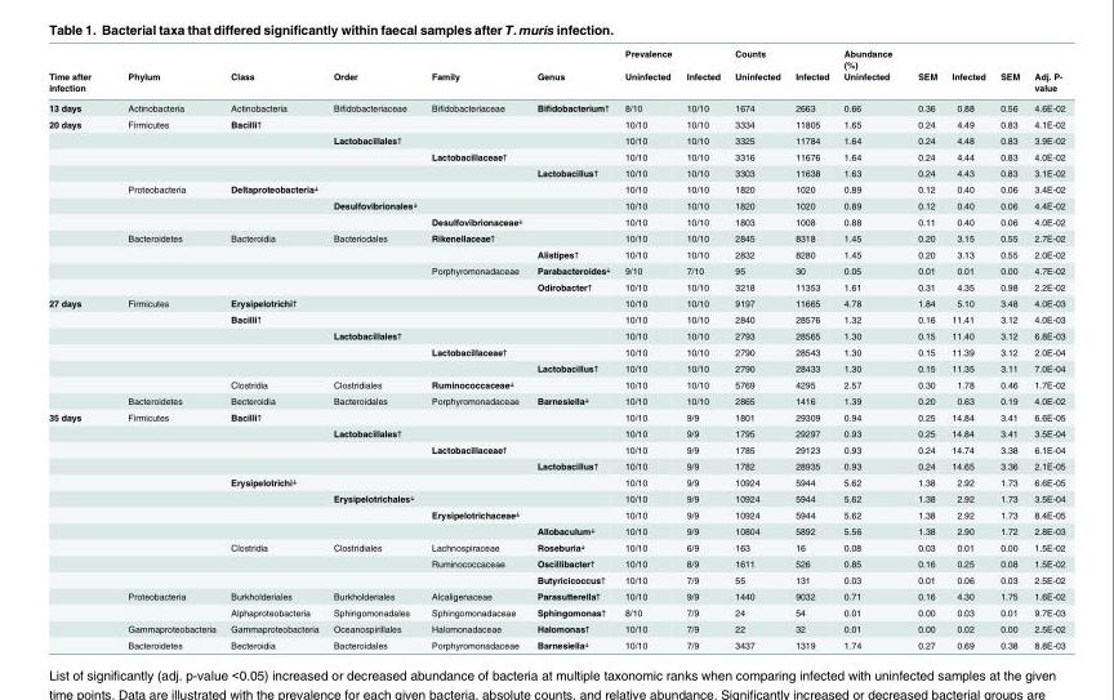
<table><thead><tr><td rowspan="2">Time after infection</td><td rowspan="2">Phylum</td><td rowspan="2">Class</td><td rowspan="2">Order</td><td rowspan="2">Family</td><td rowspan="2">Genus</td><td rowspan="2">Prevalence Uninfected</td><td rowspan="2">Infected</td><td rowspan="2">Counts Uninfected</td><td rowspan="2">Infected</td><td rowspan="2">Abundance (%) Uninfected</td><td rowspan="2">SEM</td><td rowspan="2">Infected</td><td rowspan="2">SEM</td><td rowspan="2">Adj. P- value</td></tr><tr></tr></thead><tbody><tr><td>13 days</td><td>Actinobacteria</td><td>Actinobacteria</td><td>Bifidobacteriaceae</td><td>Bifidobacteriaceae</td><td>Bifidobacteriumᛏ</td><td>8/10</td><td>10/10</td><td>1674</td><td>2663</td><td>0.66</td><td>0.36</td><td>0.88</td><td>0.56</td><td>4.6E-02</td></tr><tr><td rowspan="11">20 days</td><td>Firmicutes</td><td>Bacilliᛏ</td><td></td><td></td><td></td><td>10/10</td><td>10/10</td><td>3334</td><td>11805</td><td>1.65</td><td>0.24</td><td>4.49</td><td>0.83</td><td>4.1E-02</td></tr><tr><td></td><td></td><td>Lactobacillalesᛏ</td><td></td><td></td><td>10/10</td><td>10/10</td><td>3325</td><td>11784</td><td>1.64</td><td>0.24</td><td>4.48</td><td>0.83</td><td>3.9E-02</td></tr><tr><td></td><td></td><td></td><td>Lactobacillaceaeᛏ</td><td></td><td>10/10</td><td>10/10</td><td>3316</td><td>11676</td><td>1.64</td><td>0.24</td><td>4.44</td><td>0.83</td><td>4.0E-02</td></tr><tr><td></td><td></td><td></td><td></td><td>Lactobacillusᛏ</td><td>10/10</td><td>10/10</td><td>3303</td><td>11638</td><td>1.63</td><td>0.24</td><td>4.43</td><td>0.83</td><td>3.1E-02</td></tr><tr><td>Proteobacteria</td><td>Deltaproteobacteriaᛎ</td><td></td><td></td><td></td><td>10/10</td><td>10/10</td><td>1820</td><td>1020</td><td>0.89</td><td>0.12</td><td>0.40</td><td>0.06</td><td>3.4E-02</td></tr><tr><td></td><td></td><td>Desulfovibrionalesᛎ</td><td></td><td></td><td>10/10</td><td>10/10</td><td>1820</td><td>1020</td><td>0.89</td><td>0.12</td><td>0.40</td><td>0.06</td><td>4.4E-02</td></tr><tr><td></td><td></td><td></td><td>Desulfovibrionaceaeᛎ</td><td></td><td>10/10</td><td>10/10</td><td>1803</td><td>1008</td><td>0.88</td><td>0.11</td><td>0.40</td><td>0.06</td><td>4.0E-02</td></tr><tr><td>Bacteroidetes</td><td>Bacteroidia</td><td>Bacteriodales</td><td>Rikenellaceaeᛏ</td><td></td><td>10/10</td><td>10/10</td><td>2845</td><td>8318</td><td>1.45</td><td>0.20</td><td>3.15</td><td>0.55</td><td>2.7E-02</td></tr><tr><td></td><td></td><td></td><td></td><td>Alistipesᛏ</td><td>10/10</td><td>10/10</td><td>2832</td><td>8280</td><td>1.45</td><td>0.20</td><td>3.13</td><td>0.55</td><td>2.0E-02</td></tr><tr><td></td><td></td><td></td><td>Porphyromonadaceae</td><td>Parabacteroidesᛎ</td><td>9/10</td><td>7/10</td><td>95</td><td>30</td><td>0.05</td><td>0.01</td><td>0.01</td><td>0.00</td><td>4.7E-02</td></tr><tr><td></td><td></td><td></td><td></td><td>Odirobacterᛏ</td><td>10/10</td><td>10/10</td><td>3218</td><td>11353</td><td>1.61</td><td>0.31</td><td>4.35</td><td>0.98</td><td>2.2E-02</td></tr><tr><td rowspan="7">27 days</td><td>Firmicutes</td><td>Erysipelotrichiᛏ</td><td></td><td></td><td></td><td>10/10</td><td>10/10</td><td>9197</td><td>11665</td><td>4.78</td><td>1.84</td><td>5.10</td><td>3.48</td><td>4.0E-03</td></tr><tr><td></td><td>Bacilliᛏ</td><td></td><td></td><td></td><td>10/10</td><td>10/10</td><td>2840</td><td>28576</td><td>1.32</td><td>0.16</td><td>11.41</td><td>3.12</td><td>4.0E-03</td></tr><tr><td></td><td></td><td>Lactobacillalesᛏ</td><td></td><td></td><td>10/10</td><td>10/10</td><td>2793</td><td>28565</td><td>1.30</td><td>0.15</td><td>11.40</td><td>3.12</td><td>6.8E-03</td></tr><tr><td></td><td></td><td></td><td>Lactobacillaceaeᛏ</td><td></td><td>10/10</td><td>10/10</td><td>2790</td><td>28543</td><td>1.30</td><td>0.15</td><td>11.39</td><td>3.12</td><td>2.0E-04</td></tr><tr><td></td><td></td><td></td><td></td><td>Lactobacillusᛏ</td><td>10/10</td><td>10/10</td><td>2790</td><td>28433</td><td>1.30</td><td>0.15</td><td>11.35</td><td>3.11</td><td>7.0E-04</td></tr><tr><td></td><td>Clostridia</td><td>Clostridiales</td><td>Ruminococcaceaeᛎ</td><td></td><td>10/10</td><td>10/10</td><td>5769</td><td>4295</td><td>2.57</td><td>0.30</td><td>1.78</td><td>0.46</td><td>1.7E-02</td></tr><tr><td>Bacteroidetes</td><td>Becteroidia</td><td>Bacteroidales</td><td>Porphyromonadaceae</td><td>Barnesiellaᛎ</td><td>10/10</td><td>10/10</td><td>2865</td><td>1416</td><td>1.39</td><td>0.20</td><td>0.63</td><td>0.19</td><td>4.0E-02</td></tr><tr><td rowspan="15">35 days</td><td>Firmicutes</td><td>Bacilliᛏ</td><td></td><td></td><td></td><td>10/10</td><td>9/9</td><td>1801</td><td>29309</td><td>0.94</td><td>0.25</td><td>14.84</td><td>3.41</td><td>6.6E-05</td></tr><tr><td></td><td></td><td>Lactobacillalesᛏ</td><td></td><td></td><td>10/10</td><td>9/9</td><td>1795</td><td>29297</td><td>0.93</td><td>0.25</td><td>14.84</td><td>3.41</td><td>3.5E-04</td></tr><tr><td></td><td></td><td></td><td>Lactobacillaceaeᛏ</td><td></td><td>10/10</td><td>9/9</td><td>1785</td><td>29123</td><td>0.93</td><td>0.24</td><td>14.74</td><td>3.38</td><td>6.1E-04</td></tr><tr><td></td><td></td><td></td><td></td><td>Lactobacillusᛏ</td><td>10/10</td><td>9/9</td><td>1782</td><td>28935</td><td>0.93</td><td>0.24</td><td>14.65</td><td>3.36</td><td>2.1E-05</td></tr><tr><td></td><td>Erysipelotrichiᛎ</td><td></td><td></td><td></td><td>10/10</td><td>9/9</td><td>10924</td><td>5944</td><td>5.62</td><td>1.38</td><td>2.92</td><td>1.73</td><td>6.6E-05</td></tr><tr><td></td><td></td><td>Erysipelotrichalesᛎ</td><td></td><td></td><td>10/10</td><td>9/9</td><td>10924</td><td>5944</td><td>5.62</td><td>1.38</td><td>2.92</td><td>1.73</td><td>3.5E-04</td></tr><tr><td></td><td></td><td></td><td>Erysipelotrichaceaeᛎ</td><td></td><td>10/10</td><td>9/9</td><td>10924</td><td>5944</td><td>5.62</td><td>1.38</td><td>2.92</td><td>1.73</td><td>8.4E-05</td></tr><tr><td></td><td></td><td></td><td></td><td>Allobaculumᛎ</td><td>10/10</td><td>9/9</td><td>10804</td><td>5892</td><td>5.56</td><td>1.38</td><td>2.90</td><td>1.72</td><td>2.8E-03</td></tr><tr><td></td><td>Clostridia</td><td>Clostridiales</td><td>Lachnospiraceae</td><td>Roseburiaᛎ</td><td>10/10</td><td>6/9</td><td>163</td><td>16</td><td>0.08</td><td>0.03</td><td>0.01</td><td>0.00</td><td>1.5E-02</td></tr><tr><td></td><td></td><td></td><td>Ruminococcaceae</td><td>Oscillibacterᛏ</td><td>10/10</td><td>8/9</td><td>1611</td><td>526</td><td>0.85</td><td>0.16</td><td>0.25</td><td>0.08</td><td>1.5E-02</td></tr><tr><td></td><td></td><td></td><td></td><td>Butyricicoccusᛏ</td><td>10/10</td><td>7/9</td><td>55</td><td>131</td><td>0.03</td><td>0.01</td><td>0.06</td><td>0.03</td><td>2.5E-02</td></tr><tr><td>Proteobacteria</td><td>Burkholderiales</td><td>Burkholderiales</td><td>Alcaligenaceae</td><td>Parasutterellaᛏ</td><td>10/10</td><td>9/9</td><td>1440</td><td>9032</td><td>0.71</td><td>0.16</td><td>4.30</td><td>1.75</td><td>1.6E-02</td></tr><tr><td></td><td>Alphaproteobacteria</td><td>Sphingomonadales</td><td>Sphingomonadaceae</td><td>Sphingomonasᛏ</td><td>8/10</td><td>7/9</td><td>24</td><td>54</td><td>0.01</td><td>0.00</td><td>0.03</td><td>0.01</td><td>9.7E-03</td></tr><tr><td>Gammaproteobacteria</td><td>Gammaproteobacteria</td><td>Oceanospirillales</td><td>Halomonadaceae</td><td>Halomonasᛏ</td><td>10/10</td><td>7/9</td><td>22</td><td>32</td><td>0.01</td><td>0.00</td><td>0.02</td><td>0.00</td><td>2.5E-02</td></tr><tr><td>Bacteroidetes</td><td>Becteroidia</td><td>Bacteroidales</td><td>Porphyromonadaceae</td><td>Barnesiellaᛎ</td><td>10/10</td><td>7/9</td><td>3437</td><td>1319</td><td>1.74</td><td>0.27</td><td>0.69</td><td>0.38</td><td>8.8E-03</td></tr></tbody></table>